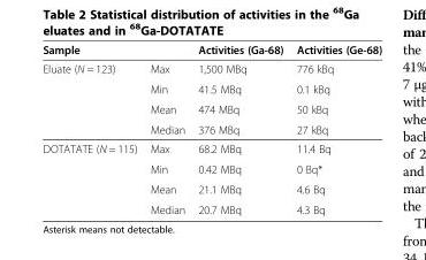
<table><thead><tr><td>Sample</td><td></td><td>Activities (Ga-68)</td><td>Activities (Ge-68)</td></tr></thead><tbody><tr><td rowspan="4">Eluate (N = 123)</td><td>Max</td><td>1,500 MBq</td><td>776 kBq</td></tr><tr><td>Min</td><td>41.5 MBq</td><td>0.1 kBq</td></tr><tr><td>Mean</td><td>474 MBq</td><td>50 kBq</td></tr><tr><td>Median</td><td>376 MBq</td><td>27 kBq</td></tr><tr><td rowspan="4">DOTATATE (N = 115)</td><td>Max</td><td>68.2 MBq</td><td>11.4 Bq</td></tr><tr><td>Min</td><td>0.42 MBq</td><td>0 Bq*</td></tr><tr><td>Mean</td><td>21.1 MBq</td><td>4.6 Bq</td></tr><tr><td>Median</td><td>20.7 MBq</td><td>4.3 Bq</td></tr></tbody></table>